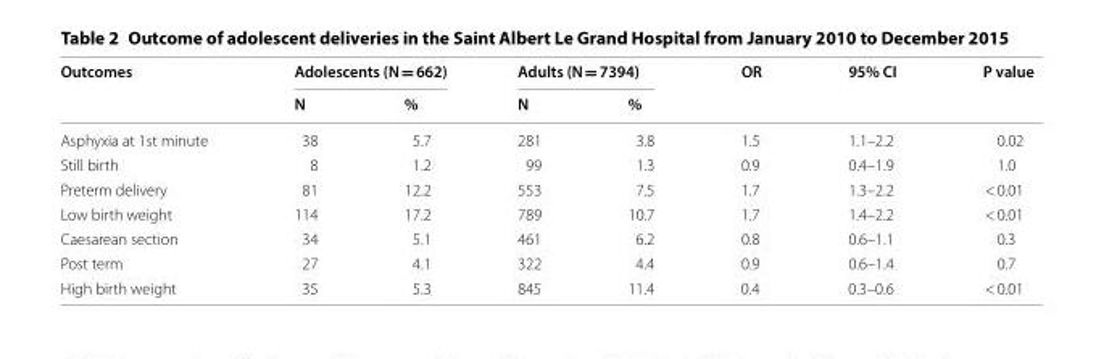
<table><thead><tr><td rowspan="2">Outcomes</td><td colspan="2">Adolescents (N = 662)</td><td colspan="2">Adults (N = 7394)</td><td rowspan="2">OR</td><td rowspan="2">95% CI</td><td rowspan="2">P value</td></tr><tr><td>N</td><td>%</td><td>N</td><td>%</td></tr></thead><tbody><tr><td>Asphyxia at 1st minute</td><td>38</td><td>5.7</td><td>281</td><td>3.8</td><td>1.5</td><td>1.1–2.2</td><td>0.02</td></tr><tr><td>Still birth</td><td>8</td><td>1.2</td><td>99</td><td>1.3</td><td>0.9</td><td>0.4–1.9</td><td>1.0</td></tr><tr><td>Preterm delivery</td><td>81</td><td>12.2</td><td>553</td><td>7.5</td><td>1.7</td><td>1.3–2.2</td><td>&lt; 0.01</td></tr><tr><td>Low birth weight</td><td>114</td><td>17.2</td><td>789</td><td>10.7</td><td>1.7</td><td>1.4–2.2</td><td>&lt; 0.01</td></tr><tr><td>Caesarean section</td><td>34</td><td>5.1</td><td>461</td><td>6.2</td><td>0.8</td><td>0.6–1.1</td><td>0.3</td></tr><tr><td>Post term</td><td>27</td><td>4.1</td><td>322</td><td>4.4</td><td>0.9</td><td>0.6–1.4</td><td>0.7</td></tr><tr><td>High birth weight</td><td>35</td><td>5.3</td><td>845</td><td>11.4</td><td>0.4</td><td>0.3–0.6</td><td>&lt; 0.01</td></tr></tbody></table>